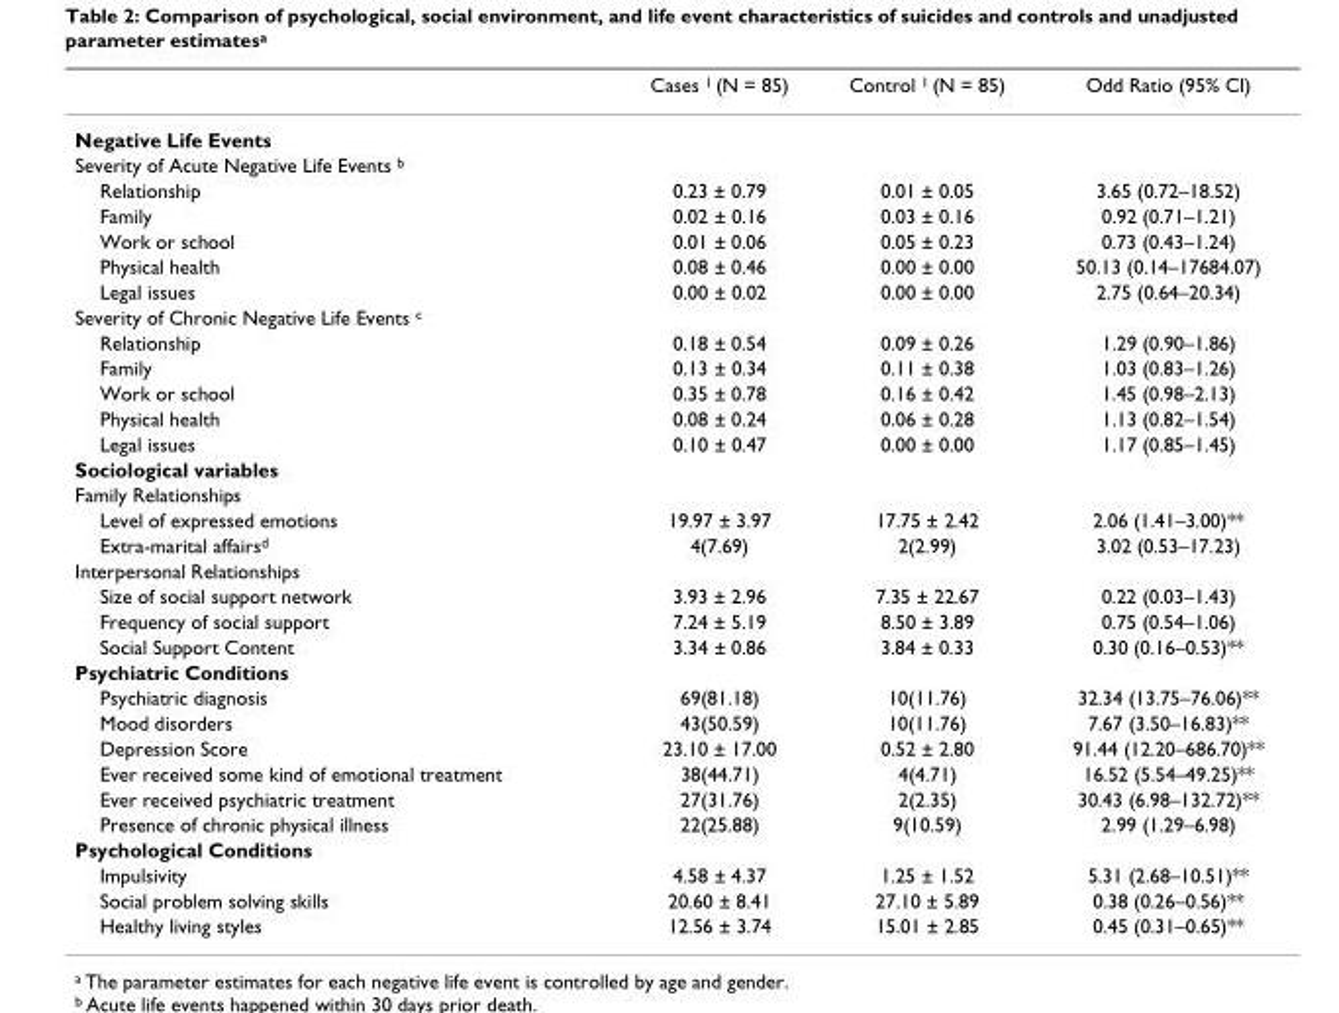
<table><thead><tr><td></td><td>Cases <sup>1</sup> (N = 85)</td><td>Control <sup>1</sup> (N = 85)</td><td>Odd Ratio (95% CI)</td></tr></thead><tbody><tr><td colspan="4">Negative Life Events</td></tr><tr><td colspan="4">Severity of Acute Negative Life Events <sup>b</sup></td></tr><tr><td>Relationship</td><td>0.23 ± 0.79</td><td>0.01 ± 0.05</td><td>3.65 (0.72–18.52)</td></tr><tr><td>Family</td><td>0.02 ± 0.16</td><td>0.03 ± 0.16</td><td>0.92 (0.71–1.21)</td></tr><tr><td>Work or school</td><td>0.01 ± 0.06</td><td>0.05 ± 0.23</td><td>0.73 (0.43–1.24)</td></tr><tr><td>Physical health</td><td>0.08 ± 0.46</td><td>0.00 ± 0.00</td><td>50.13 (0.14–17684.07)</td></tr><tr><td>Legal issues</td><td>0.00 ± 0.02</td><td>0.00 ± 0.00</td><td>2.75 (0.64–20.34)</td></tr><tr><td colspan="4">Severity of Chronic Negative Life Events <sup>c</sup></td></tr><tr><td>Relationship</td><td>0.18 ± 0.54</td><td>0.09 ± 0.26</td><td>1.29 (0.90–1.86)</td></tr><tr><td>Family</td><td>0.13 ± 0.34</td><td>0.11 ± 0.38</td><td>1.03 (0.83–1.26)</td></tr><tr><td>Work or school</td><td>0.35 ± 0.78</td><td>0.16 ± 0.42</td><td>1.45 (0.98–2.13)</td></tr><tr><td>Physical health</td><td>0.08 ± 0.24</td><td>0.06 ± 0.28</td><td>1.13 (0.82–1.54)</td></tr><tr><td>Legal issues</td><td>0.10 ± 0.47</td><td>0.00 ± 0.00</td><td>1.17 (0.85–1.45)</td></tr><tr><td colspan="4">Sociological variables</td></tr><tr><td colspan="4">Family Relationships</td></tr><tr><td>Level of expressed emotions</td><td>19.97 ± 3.97</td><td>17.75 ± 2.42</td><td>2.06 (1.41–3.00)**</td></tr><tr><td>Extra-marital affairs<sup>d</sup></td><td>4(7.69)</td><td>2(2.99)</td><td>3.02 (0.53–17.23)</td></tr><tr><td colspan="4">Interpersonal Relationships</td></tr><tr><td>Size of social support network</td><td>3.93 ± 2.96</td><td>7.35 ± 22.67</td><td>0.22 (0.03–1.43)</td></tr><tr><td>Frequency of social support</td><td>7.24 ± 5.19</td><td>8.50 ± 3.89</td><td>0.75 (0.54–1.06)</td></tr><tr><td>Social Support Content</td><td>3.34 ± 0.86</td><td>3.84 ± 0.33</td><td>0.30 (0.16–0.53)**</td></tr><tr><td colspan="4">Psychiatric Conditions</td></tr><tr><td>Psychiatric diagnosis</td><td>69(81.18)</td><td>10(11.76)</td><td>32.34 (13.75–76.06)**</td></tr><tr><td>Mood disorders</td><td>43(50.59)</td><td>10(11.76)</td><td>7.67 (3.50–16.83)**</td></tr><tr><td>Depression Score</td><td>23.10 ± 17.00</td><td>0.52 ± 2.80</td><td>91.44 (12.20–686.70)**</td></tr><tr><td>Ever received some kind of emotional treatment</td><td>38(44.71)</td><td>4(4.71)</td><td>16.52 (5.54–49.25)**</td></tr><tr><td>Ever received psychiatric treatment</td><td>27(31.76)</td><td>2(2.35)</td><td>30.43 (6.98–132.72)**</td></tr><tr><td>Presence of chronic physical illness</td><td>22(25.88)</td><td>9(10.59)</td><td>2.99 (1.29–6.98)</td></tr><tr><td colspan="4">Psychological Conditions</td></tr><tr><td>Impulsivity</td><td>4.58 ± 4.37</td><td>1.25 ± 1.52</td><td>5.31 (2.68–10.51)**</td></tr><tr><td>Social problem solving skills</td><td>20.60 ± 8.41</td><td>27.10 ± 5.89</td><td>0.38 (0.26–0.56)**</td></tr><tr><td>Healthy living styles</td><td>12.56 ± 3.74</td><td>15.01 ± 2.85</td><td>0.45 (0.31–0.65)**</td></tr></tbody></table>